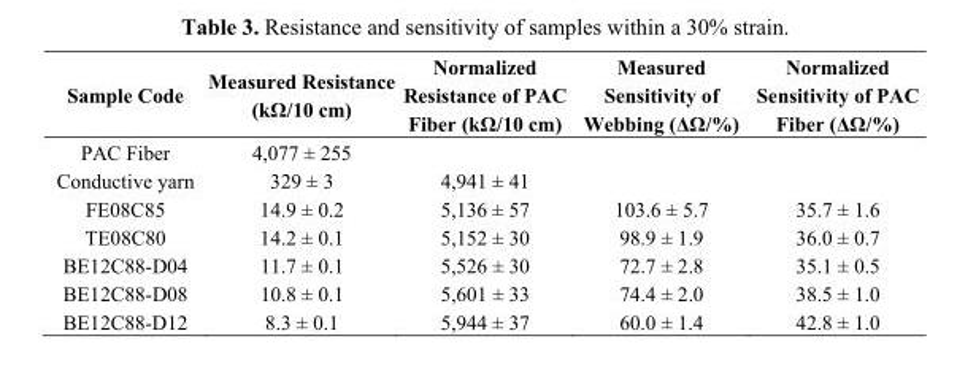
<table><thead><tr><td>Sample Code</td><td>Measured Resistance (kΩ/10 cm)</td><td>Normalized Resistance of PAC Fiber (kΩ/10 cm)</td><td>Measured Sensitivity of Webbing (ΔΩ/%)</td><td>Normalized Sensitivity of PAC Fiber (ΔΩ/%)</td></tr></thead><tbody><tr><td>PAC Fiber</td><td>4,077 ± 255</td><td></td><td></td><td></td></tr><tr><td>Conductive yarn</td><td>329 ± 3</td><td>4,941 ± 41</td><td></td><td></td></tr><tr><td>FE08C85</td><td>14.9 ± 0.2</td><td>5,136 ± 57</td><td>103.6 ± 5.7</td><td>35.7 ± 1.6</td></tr><tr><td>TE08C80</td><td>14.2 ± 0.1</td><td>5,152 ± 30</td><td>98.9 ± 1.9</td><td>36.0 ± 0.7</td></tr><tr><td>BE12C88-D04</td><td>11.7 ± 0.1</td><td>5,526 ± 30</td><td>72.7 ± 2.8</td><td>35.1 ± 0.5</td></tr><tr><td>BE12C88-D08</td><td>10.8 ± 0.1</td><td>5,601 ± 33</td><td>74.4 ± 2.0</td><td>38.5 ± 1.0</td></tr><tr><td>BE12C88-D12</td><td>8.3 ± 0.1</td><td>5,944 ± 37</td><td>60.0 ± 1.4</td><td>42.8 ± 1.0</td></tr></tbody></table>